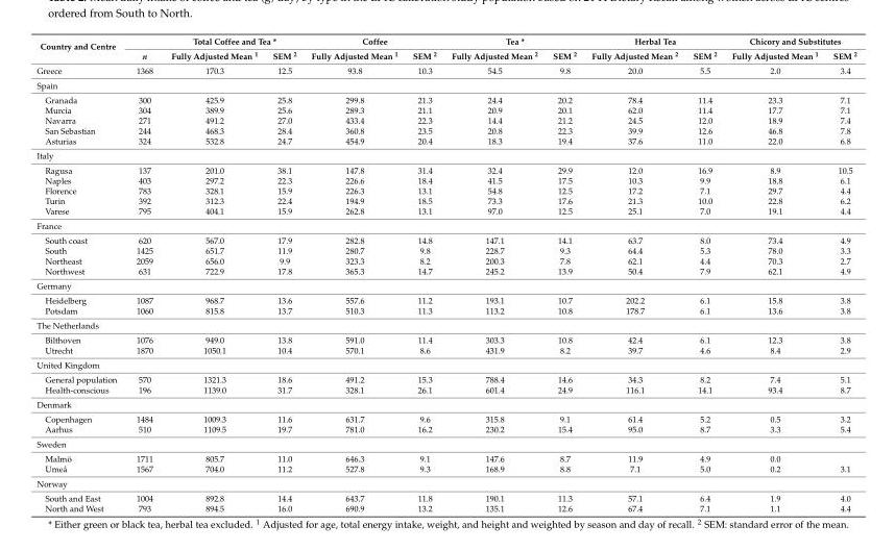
<table><thead><tr><td rowspan="2">Country and Centre</td><td rowspan="2">n</td><td colspan="2">Total Coffee and Tea *</td><td colspan="2">Coffee</td><td colspan="2">Tea *</td><td colspan="2">Herbal Tea</td><td colspan="2">Chicory and Substitutes</td></tr><tr><td>Fully Adjusted Mean <sup>1</sup></td><td>SEM <sup>2</sup></td><td>Fully Adjusted Mean <sup>1</sup></td><td>SEM <sup>2</sup></td><td>Fully Adjusted Mean <sup>2</sup></td><td>SEM <sup>2</sup></td><td>Fully Adjusted Mean <sup>2</sup></td><td>SEM <sup>2</sup></td><td>Fully Adjusted Mean <sup>1</sup></td><td>SEM <sup>2</sup></td></tr></thead><tbody><tr><td>Greece</td><td>1368</td><td>170.3</td><td>12.5</td><td>93.8</td><td>10.3</td><td>54.5</td><td>9.8</td><td>20.0</td><td>5.5</td><td>2.0</td><td>3.4</td></tr><tr><td colspan="12">Spain</td></tr><tr><td>Granada</td><td>300</td><td>425.9</td><td>25.8</td><td>299.8</td><td>21.3</td><td>24.4</td><td>20.2</td><td>78.4</td><td>11.4</td><td>23.3</td><td>7.1</td></tr><tr><td>Murcia</td><td>304</td><td>389.9</td><td>25.6</td><td>289.3</td><td>21.1</td><td>20.9</td><td>20.1</td><td>62.0</td><td>11.4</td><td>17.7</td><td>7.1</td></tr><tr><td>Navarra</td><td>271</td><td>491.2</td><td>27.0</td><td>433.4</td><td>22.3</td><td>14.4</td><td>21.2</td><td>24.5</td><td>12.0</td><td>18.9</td><td>7.4</td></tr><tr><td>San Sebastian</td><td>244</td><td>468.3</td><td>28.4</td><td>360.8</td><td>23.5</td><td>20.8</td><td>22.3</td><td>39.9</td><td>12.6</td><td>46.8</td><td>7.8</td></tr><tr><td>Asturias</td><td>324</td><td>532.8</td><td>24.7</td><td>454.9</td><td>20.4</td><td>18.3</td><td>19.4</td><td>37.6</td><td>11.0</td><td>22.0</td><td>6.8</td></tr><tr><td colspan="12">Italy</td></tr><tr><td>Ragusa</td><td>137</td><td>201.0</td><td>38.1</td><td>147.8</td><td>31.4</td><td>32.4</td><td>29.9</td><td>12.0</td><td>16.9</td><td>8.9</td><td>10.5</td></tr><tr><td>Naples</td><td>403</td><td>297.2</td><td>22.3</td><td>226.6</td><td>18.4</td><td>41.5</td><td>17.5</td><td>10.3</td><td>9.9</td><td>18.8</td><td>6.1</td></tr><tr><td>Florence</td><td>783</td><td>328.1</td><td>15.9</td><td>226.3</td><td>13.1</td><td>54.8</td><td>12.5</td><td>17.2</td><td>7.1</td><td>29.7</td><td>4.4</td></tr><tr><td>Turin</td><td>392</td><td>312.3</td><td>22.4</td><td>194.9</td><td>18.5</td><td>73.3</td><td>17.6</td><td>21.3</td><td>10.0</td><td>22.8</td><td>6.2</td></tr><tr><td>Varese</td><td>795</td><td>404.1</td><td>15.9</td><td>262.8</td><td>13.1</td><td>97.0</td><td>12.5</td><td>25.1</td><td>7.0</td><td>19.1</td><td>4.4</td></tr><tr><td colspan="12">France</td></tr><tr><td>South coast</td><td>620</td><td>567.0</td><td>17.9</td><td>282.8</td><td>14.8</td><td>147.1</td><td>14.1</td><td>63.7</td><td>8.0</td><td>73.4</td><td>4.9</td></tr><tr><td>South</td><td>1425</td><td>651.7</td><td>11.9</td><td>280.7</td><td>9.8</td><td>228.7</td><td>9.3</td><td>64.4</td><td>5.3</td><td>78.0</td><td>3.3</td></tr><tr><td>Northeast</td><td>2059</td><td>656.0</td><td>9.9</td><td>323.3</td><td>8.2</td><td>200.3</td><td>7.8</td><td>62.1</td><td>4.4</td><td>70.3</td><td>2.7</td></tr><tr><td>Northwest</td><td>631</td><td>722.9</td><td>17.8</td><td>365.3</td><td>14.7</td><td>245.2</td><td>13.9</td><td>50.4</td><td>7.9</td><td>62.1</td><td>4.9</td></tr><tr><td colspan="12">Germany</td></tr><tr><td>Heidelberg</td><td>1087</td><td>968.7</td><td>13.6</td><td>557.6</td><td>11.2</td><td>193.1</td><td>10.7</td><td>202.2</td><td>6.1</td><td>15.8</td><td>3.8</td></tr><tr><td>Potsdam</td><td>1060</td><td>815.8</td><td>13.7</td><td>510.3</td><td>11.3</td><td>113.2</td><td>10.8</td><td>178.7</td><td>6.1</td><td>13.6</td><td>3.8</td></tr><tr><td colspan="12">The Netherlands</td></tr><tr><td>Bilthoven</td><td>1076</td><td>949.0</td><td>13.8</td><td>591.0</td><td>11.4</td><td>303.3</td><td>10.8</td><td>42.4</td><td>6.1</td><td>12.3</td><td>3.8</td></tr><tr><td>Utrecht</td><td>1870</td><td>1050.1</td><td>10.4</td><td>570.1</td><td>8.6</td><td>431.9</td><td>8.2</td><td>39.7</td><td>4.6</td><td>8.4</td><td>2.9</td></tr><tr><td colspan="12">United Kingdom</td></tr><tr><td>General population</td><td>570</td><td>1321.3</td><td>18.6</td><td>491.2</td><td>15.3</td><td>788.4</td><td>14.6</td><td>34.3</td><td>8.2</td><td>7.4</td><td>5.1</td></tr><tr><td>Health-conscious</td><td>196</td><td>1139.0</td><td>31.7</td><td>328.1</td><td>26.1</td><td>601.4</td><td>24.9</td><td>116.1</td><td>14.1</td><td>93.4</td><td>8.7</td></tr><tr><td colspan="12">Denmark</td></tr><tr><td>Copenhagen</td><td>1484</td><td>1009.3</td><td>11.6</td><td>631.7</td><td>9.6</td><td>315.8</td><td>9.1</td><td>61.4</td><td>5.2</td><td>0.5</td><td>3.2</td></tr><tr><td>Aarhus</td><td>510</td><td>1109.5</td><td>19.7</td><td>781.0</td><td>16.2</td><td>230.2</td><td>15.4</td><td>95.0</td><td>8.7</td><td>3.3</td><td>5.4</td></tr><tr><td colspan="12">Sweden</td></tr><tr><td>Malmö</td><td>1711</td><td>805.7</td><td>11.0</td><td>646.3</td><td>9.1</td><td>147.6</td><td>8.7</td><td>11.9</td><td>4.9</td><td>0.0</td><td></td></tr><tr><td>Umeå</td><td>1567</td><td>704.0</td><td>11.2</td><td>527.8</td><td>9.3</td><td>168.9</td><td>8.8</td><td>7.1</td><td>5.0</td><td>0.2</td><td>3.1</td></tr><tr><td colspan="12">Norway</td></tr><tr><td>South and East</td><td>1004</td><td>892.8</td><td>14.4</td><td>643.7</td><td>11.8</td><td>190.1</td><td>11.3</td><td>57.1</td><td>6.4</td><td>1.9</td><td>4.0</td></tr><tr><td>North and West</td><td>793</td><td>894.5</td><td>16.0</td><td>690.9</td><td>13.2</td><td>135.1</td><td>12.6</td><td>67.4</td><td>7.1</td><td>1.1</td><td>4.4</td></tr></tbody></table>